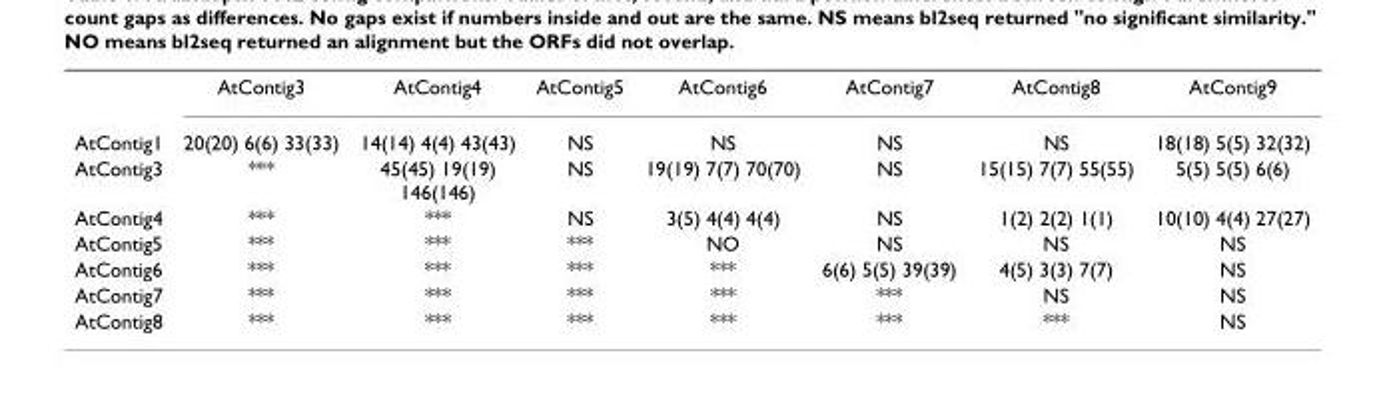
<table><thead><tr><td></td><td>AtContig3</td><td>AtContig4</td><td>AtContig5</td><td>AtContig6</td><td>AtContig7</td><td>AtContig8</td><td>AtContig9</td></tr></thead><tbody><tr><td>AtContig1</td><td>20(20) 6(6) 33(33)</td><td>14(14) 4(4) 43(43)</td><td>NS</td><td>NS</td><td>NS</td><td>NS</td><td>18(18) 5(5) 32(32)</td></tr><tr><td>AtContig3</td><td>***</td><td>45(45) 19(19) 146(146)</td><td>NS</td><td>19(19) 7(7) 70(70)</td><td>NS</td><td>15(15) 7(7) 55(55)</td><td>5(5) 5(5) 6(6)</td></tr><tr><td>AtContig4</td><td>***</td><td>***</td><td>NS</td><td>3(5) 4(4) 4(4)</td><td>NS</td><td>1(2) 2(2) 1(1)</td><td>10(10) 4(4) 27(27)</td></tr><tr><td>AtContig5</td><td>***</td><td>***</td><td>***</td><td>NO</td><td>NS</td><td>NS</td><td>NS</td></tr><tr><td>AtContig6</td><td>***</td><td>***</td><td>***</td><td>***</td><td>6(6) 5(5) 39(39)</td><td>4(5) 3(3) 7(7)</td><td>NS</td></tr><tr><td>AtContig7</td><td>***</td><td>***</td><td>***</td><td>***</td><td>***</td><td>NS</td><td>NS</td></tr><tr><td>AtContig8</td><td>***</td><td>***</td><td>***</td><td>***</td><td>***</td><td>***</td><td>NS</td></tr></tbody></table>